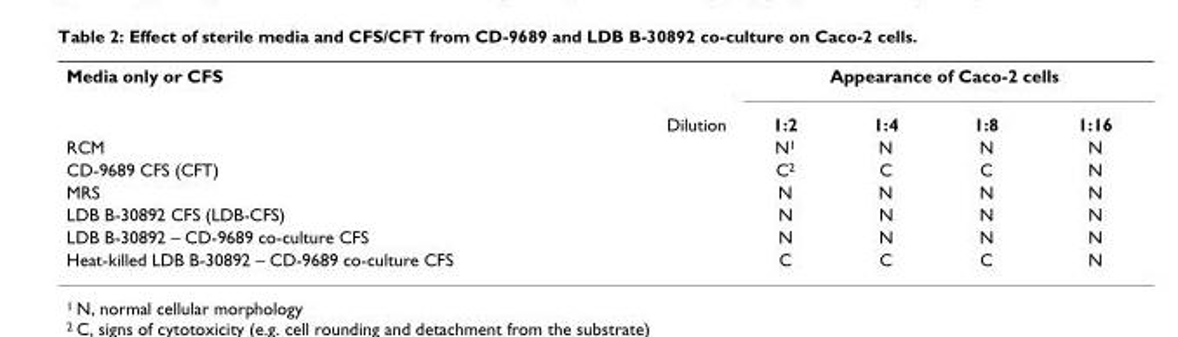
<table><tbody><tr><td>Media only or CFS</td><td colspan="4">Appearance of Caco-2 cells</td></tr><tr><td>Dilution</td><td>1:2</td><td>1:4</td><td>1:8</td><td>1:16</td></tr><tr><td>RCM</td><td>N<sup>1</sup></td><td>N</td><td>N</td><td>N</td></tr><tr><td>CD-9689 CFS (CFT)</td><td>C<sup>2</sup></td><td>C</td><td>C</td><td>N</td></tr><tr><td>MRS</td><td>N</td><td>N</td><td>N</td><td>N</td></tr><tr><td>LDB B-30892 CFS (LDB-CFS)</td><td>N</td><td>N</td><td>N</td><td>N</td></tr><tr><td>LDB B-30892 – CD-9689 co-culture CFS</td><td>N</td><td>N</td><td>N</td><td>N</td></tr><tr><td>Heat-killed LDB B-30892 – CD-9689 co-culture CFS</td><td>C</td><td>C</td><td>C</td><td>N</td></tr></tbody></table>